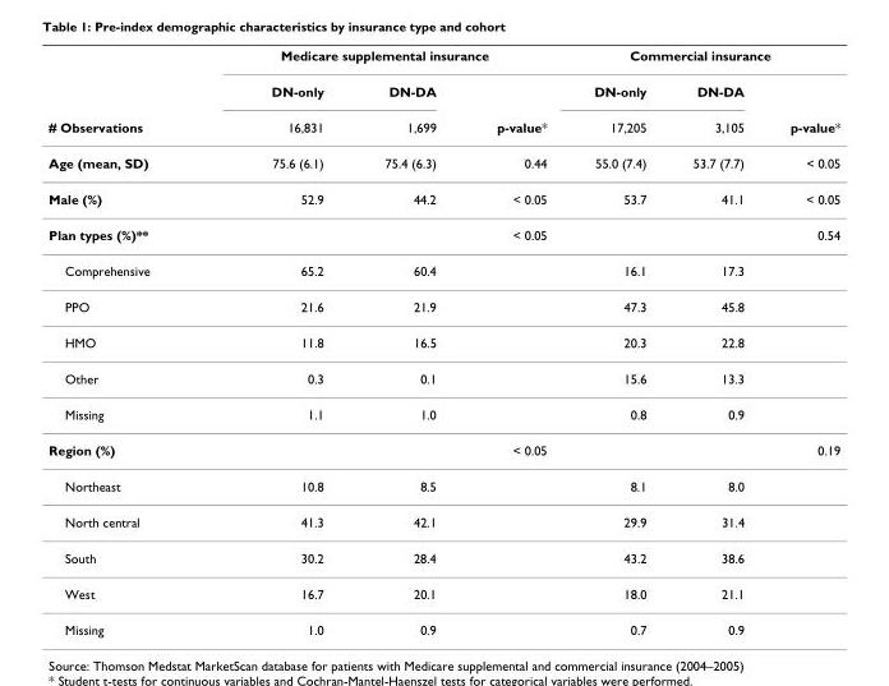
<table><thead><tr><td rowspan="3"># Observations</td><td colspan="3">Medicare supplemental insurance</td><td colspan="3">Commercial insurance</td></tr><tr><td rowspan="2">DN-only 16,831</td><td rowspan="2">DN-DA 1,699</td><td rowspan="2">p-value*</td><td rowspan="2">DN-only 17,205</td><td rowspan="2">DN-DA 3,105</td><td rowspan="2">p-value*</td></tr><tr></tr></thead><tbody><tr><td>Age (mean, SD)</td><td>75.6 (6.1)</td><td>75.4 (6.3)</td><td>0.44</td><td>55.0 (7.4)</td><td>53.7 (7.7)</td><td>&lt; 0.05</td></tr><tr><td>Male (%)</td><td>52.9</td><td>44.2</td><td>&lt; 0.05</td><td>53.7</td><td>41.1</td><td>&lt; 0.05</td></tr><tr><td>Plan types (%)**</td><td></td><td></td><td>&lt; 0.05</td><td></td><td></td><td>0.54</td></tr><tr><td>Comprehensive</td><td>65.2</td><td>60.4</td><td></td><td>16.1</td><td>17.3</td><td></td></tr><tr><td>PPO</td><td>21.6</td><td>21.9</td><td></td><td>47.3</td><td>45.8</td><td></td></tr><tr><td>HMO</td><td>11.8</td><td>16.5</td><td></td><td>20.3</td><td>22.8</td><td></td></tr><tr><td>Other</td><td>0.3</td><td>0.1</td><td></td><td>15.6</td><td>13.3</td><td></td></tr><tr><td>Missing</td><td>1.1</td><td>1.0</td><td></td><td>0.8</td><td>0.9</td><td></td></tr><tr><td>Region (%)</td><td></td><td></td><td>&lt; 0.05</td><td></td><td></td><td>0.19</td></tr><tr><td>Northeast</td><td>10.8</td><td>8.5</td><td></td><td>8.1</td><td>8.0</td><td></td></tr><tr><td>North central</td><td>41.3</td><td>42.1</td><td></td><td>29.9</td><td>31.4</td><td></td></tr><tr><td>South</td><td>30.2</td><td>28.4</td><td></td><td>43.2</td><td>38.6</td><td></td></tr><tr><td>West</td><td>16.7</td><td>20.1</td><td></td><td>18.0</td><td>21.1</td><td></td></tr><tr><td>Missing</td><td>1.0</td><td>0.9</td><td></td><td>0.7</td><td>0.9</td><td></td></tr></tbody></table>